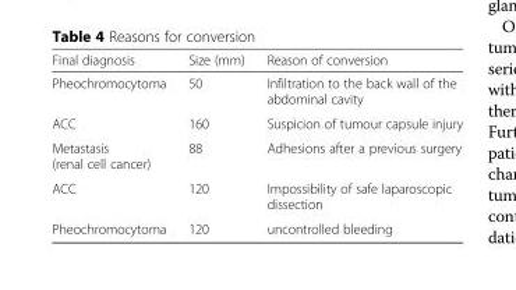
<table><thead><tr><td>Final diagnosis</td><td>Size (mm)</td><td>Reason of conversion</td></tr></thead><tbody><tr><td>Pheochromocytoma</td><td>50</td><td>Infiltration to the back wall of the abdominal cavity</td></tr><tr><td>ACC</td><td>160</td><td>Suspicion of tumour capsule injury</td></tr><tr><td>Metastasis (renal cell cancer)</td><td>88</td><td>Adhesions after a previous surgery</td></tr><tr><td>ACC</td><td>120</td><td>Impossibility of safe laparoscopic dissection</td></tr><tr><td>Pheochromocytoma</td><td>120</td><td>uncontrolled bleeding</td></tr></tbody></table>